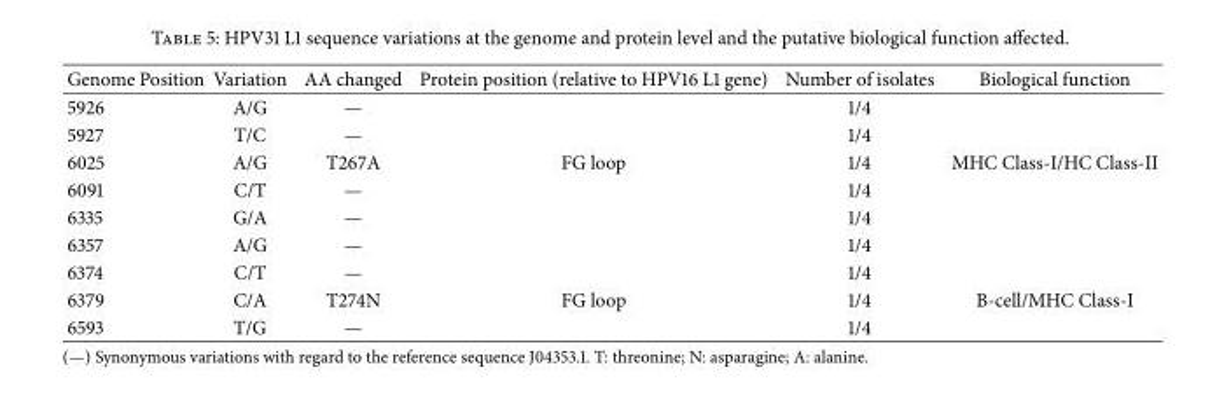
<table><thead><tr><td>Genome Position</td><td>Variation</td><td>AA changed</td><td>Protein position (relative to HPV16 L1 gene)</td><td>Number of isolates</td><td>Biological function</td></tr></thead><tbody><tr><td>5926</td><td>A/G</td><td>—</td><td></td><td>1/4</td><td></td></tr><tr><td>5927</td><td>T/C</td><td>—</td><td></td><td>1/4</td><td></td></tr><tr><td>6025</td><td>A/G</td><td>T267A</td><td>FG loop</td><td>1/4</td><td>MHC Class-I/HC Class-II</td></tr><tr><td>6091</td><td>C/T</td><td>—</td><td></td><td>1/4</td><td></td></tr><tr><td>6335</td><td>G/A</td><td>—</td><td></td><td>1/4</td><td></td></tr><tr><td>6357</td><td>A/G</td><td>—</td><td></td><td>1/4</td><td></td></tr><tr><td>6374</td><td>C/T</td><td>—</td><td></td><td>1/4</td><td></td></tr><tr><td>6379</td><td>C/A</td><td>T274N</td><td>FG loop</td><td>1/4</td><td>B-cell/MHC Class-I</td></tr><tr><td>6593</td><td>T/G</td><td>—</td><td></td><td>1/4</td><td></td></tr></tbody></table>